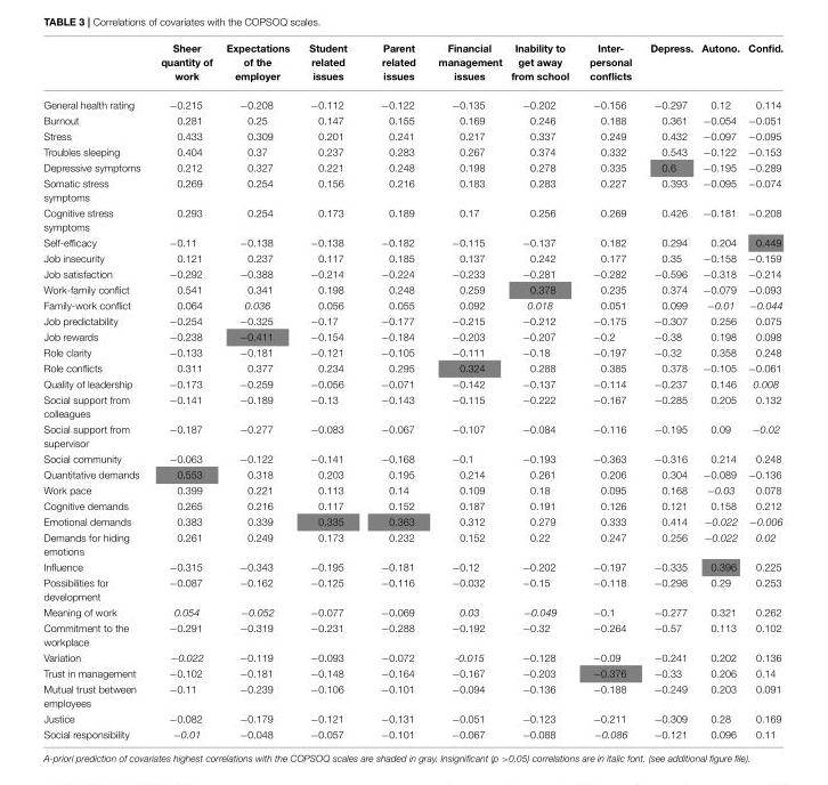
<table><thead><tr><td></td><td>Sheer quantity of work</td><td>Expectations of the employer</td><td>Student related issues</td><td>Parent related issues</td><td>Financial management issues</td><td>Inability to get away from school</td><td>Inter- personal conflicts</td><td>Depress.</td><td>Autono.</td><td>Confid.</td></tr></thead><tbody><tr><td>General health rating</td><td>−0.215</td><td>−0.208</td><td>−0.112</td><td>−0.122</td><td>−0.135</td><td>−0.202</td><td>−0.156</td><td>−0.297</td><td>0.12</td><td>0.114</td></tr><tr><td>Burnout</td><td>0.281</td><td>0.25</td><td>0.147</td><td>0.155</td><td>0.169</td><td>0.246</td><td>0.188</td><td>0.361</td><td>−0.054</td><td>−0.051</td></tr><tr><td>Stress</td><td>0.433</td><td>0.309</td><td>0.201</td><td>0.241</td><td>0.217</td><td>0.337</td><td>0.249</td><td>0.432</td><td>−0.097</td><td>−0.095</td></tr><tr><td>Troubles sleeping</td><td>0.404</td><td>0.37</td><td>0.237</td><td>0.283</td><td>0.267</td><td>0.374</td><td>0.332</td><td>0.543</td><td>−0.122</td><td>−0.153</td></tr><tr><td>Depressive symptoms</td><td>0.212</td><td>0.327</td><td>0.221</td><td>0.248</td><td>0.198</td><td>0.278</td><td>0.335</td><td>0.6</td><td>−0.195</td><td>−0.289</td></tr><tr><td>Somatic stress symptoms</td><td>0.269</td><td>0.254</td><td>0.156</td><td>0.216</td><td>0.183</td><td>0.283</td><td>0.227</td><td>0.393</td><td>−0.095</td><td>−0.074</td></tr><tr><td>Cognitive stress symptoms</td><td>0.293</td><td>0.254</td><td>0.173</td><td>0.189</td><td>0.17</td><td>0.256</td><td>0.269</td><td>0.426</td><td>−0.181</td><td>−0.208</td></tr><tr><td>Self-efficacy</td><td>−0.11</td><td>−0.138</td><td>−0.138</td><td>−0.182</td><td>−0.115</td><td>−0.137</td><td>0.182</td><td>0.294</td><td>0.204</td><td>0.449</td></tr><tr><td>Job insecurity</td><td>0.121</td><td>0.237</td><td>0.117</td><td>0.185</td><td>0.137</td><td>0.242</td><td>0.177</td><td>0.35</td><td>−0.158</td><td>−0.159</td></tr><tr><td>Job satisfaction</td><td>−0.292</td><td>−0.388</td><td>−0.214</td><td>−0.224</td><td>−0.233</td><td>−0.281</td><td>−0.282</td><td>−0.596</td><td>−0.318</td><td>−0.214</td></tr><tr><td>Work-family conflict</td><td>0.541</td><td>0.341</td><td>0.198</td><td>0.248</td><td>0.259</td><td>0.378</td><td>0.235</td><td>0.374</td><td>−0.079</td><td>−0.093</td></tr><tr><td>Family-work conflict</td><td>0.064</td><td>0.036</td><td>0.056</td><td>0.055</td><td>0.092</td><td>0.018</td><td>0.051</td><td>0.099</td><td>−0.01</td><td>−0.044</td></tr><tr><td>Job predictability</td><td>−0.254</td><td>−0.325</td><td>−0.17</td><td>−0.177</td><td>−0.215</td><td>−0.212</td><td>−0.175</td><td>−0.307</td><td>0.256</td><td>0.075</td></tr><tr><td>Job rewards</td><td>−0.238</td><td>−0.411</td><td>−0.154</td><td>−0.184</td><td>−0.203</td><td>−0.207</td><td>−0.2</td><td>−0.38</td><td>0.198</td><td>0.098</td></tr><tr><td>Role clarity</td><td>−0.133</td><td>−0.181</td><td>−0.121</td><td>−0.105</td><td>−0.111</td><td>−0.18</td><td>−0.197</td><td>−0.32</td><td>0.358</td><td>0.248</td></tr><tr><td>Role conflicts</td><td>0.311</td><td>0.377</td><td>0.234</td><td>0.295</td><td>0.324</td><td>0.288</td><td>0.385</td><td>0.378</td><td>−0.105</td><td>−0.061</td></tr><tr><td>Quality of leadership</td><td>−0.173</td><td>−0.259</td><td>−0.056</td><td>−0.071</td><td>−0.142</td><td>−0.137</td><td>−0.114</td><td>−0.237</td><td>0.146</td><td>0.008</td></tr><tr><td>Social support from colleagues</td><td>−0.141</td><td>−0.189</td><td>−0.13</td><td>−0.143</td><td>−0.115</td><td>−0.222</td><td>−0.167</td><td>−0.285</td><td>0.205</td><td>0.132</td></tr><tr><td>Social support from supervisor</td><td>−0.187</td><td>−0.277</td><td>−0.083</td><td>−0.067</td><td>−0.107</td><td>−0.084</td><td>−0.116</td><td>−0.195</td><td>0.09</td><td>−0.02</td></tr><tr><td>Social community</td><td>−0.063</td><td>−0.122</td><td>−0.141</td><td>−0.168</td><td>−0.1</td><td>−0.193</td><td>−0.363</td><td>−0.316</td><td>0.214</td><td>0.248</td></tr><tr><td>Quantitative demands</td><td>0.553</td><td>0.318</td><td>0.203</td><td>0.195</td><td>0.214</td><td>0.261</td><td>0.206</td><td>0.304</td><td>−0.089</td><td>−0.136</td></tr><tr><td>Work pace</td><td>0.399</td><td>0.221</td><td>0.113</td><td>0.14</td><td>0.109</td><td>0.18</td><td>0.095</td><td>0.168</td><td>−0.03</td><td>0.078</td></tr><tr><td>Cognitive demands</td><td>0.265</td><td>0.216</td><td>0.117</td><td>0.152</td><td>0.187</td><td>0.191</td><td>0.126</td><td>0.121</td><td>0.158</td><td>0.212</td></tr><tr><td>Emotional demands</td><td>0.383</td><td>0.339</td><td>0.335</td><td>0.363</td><td>0.312</td><td>0.279</td><td>0.333</td><td>0.414</td><td>−0.022</td><td>−0.006</td></tr><tr><td>Demands for hiding emotions</td><td>0.261</td><td>0.249</td><td>0.173</td><td>0.232</td><td>0.152</td><td>0.22</td><td>0.247</td><td>0.256</td><td>−0.022</td><td>0.02</td></tr><tr><td>Influence</td><td>−0.315</td><td>−0.343</td><td>−0.195</td><td>−0.181</td><td>−0.12</td><td>−0.202</td><td>−0.197</td><td>−0.335</td><td>0.396</td><td>0.225</td></tr><tr><td>Possibilities for development</td><td>−0.087</td><td>−0.162</td><td>−0.125</td><td>−0.116</td><td>−0.032</td><td>−0.15</td><td>−0.118</td><td>−0.298</td><td>0.29</td><td>0.253</td></tr><tr><td>Meaning of work</td><td>0.054</td><td>−0.052</td><td>−0.077</td><td>−0.069</td><td>0.03</td><td>−0.049</td><td>−0.1</td><td>−0.277</td><td>0.321</td><td>0.262</td></tr><tr><td>Commitment to the workplace</td><td>−0.291</td><td>−0.319</td><td>−0.231</td><td>−0.288</td><td>−0.192</td><td>−0.32</td><td>−0.264</td><td>−0.57</td><td>0.113</td><td>0.102</td></tr><tr><td>Variation</td><td>−0.022</td><td>−0.119</td><td>−0.093</td><td>−0.072</td><td>-0.015</td><td>−0.128</td><td>−0.09</td><td>−0.241</td><td>0.202</td><td>0.136</td></tr><tr><td>Trust in management</td><td>−0.102</td><td>−0.181</td><td>−0.148</td><td>−0.164</td><td>−0.167</td><td>−0.203</td><td>−0.376</td><td>−0.33</td><td>0.206</td><td>0.14</td></tr><tr><td>Mutual trust between employees</td><td>−0.11</td><td>−0.239</td><td>−0.106</td><td>−0.101</td><td>−0.094</td><td>−0.136</td><td>−0.188</td><td>−0.249</td><td>0.203</td><td>0.091</td></tr><tr><td>Justice</td><td>−0.082</td><td>−0.179</td><td>−0.121</td><td>−0.131</td><td>−0.051</td><td>−0.123</td><td>−0.211</td><td>−0.309</td><td>0.28</td><td>0.169</td></tr><tr><td>Social responsibility</td><td>−0.01</td><td>−0.048</td><td>−0.057</td><td>−0.101</td><td>−0.067</td><td>−0.088</td><td>−0.086</td><td>−0.121</td><td>0.096</td><td>0.11</td></tr></tbody></table>